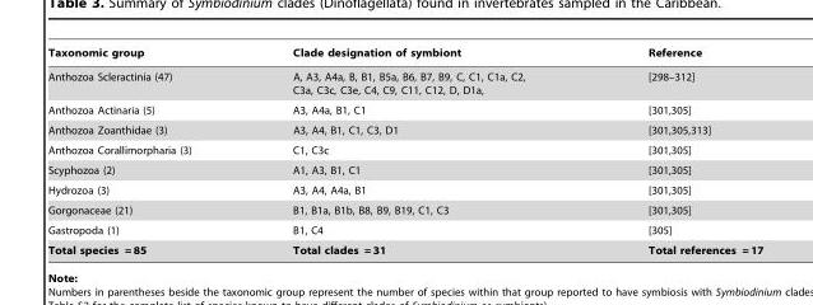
<table><thead><tr><td>Taxonomic group</td><td>Clade designation of symbiont</td><td>Reference</td></tr></thead><tbody><tr><td>Anthozoa Scleractinia (47)</td><td>A, A3, A4a, B, B1, B5a, B6, B7, B9, C, C1, C1a, C2, C3a, C3c, C3e, C4, C9, C11, C12, D, D1a,</td><td>[298–312]</td></tr><tr><td>Anthozoa Actinaria (5)</td><td>A3, A4a, B1, C1</td><td>[301,305]</td></tr><tr><td>Anthozoa Zoanthidae (3)</td><td>A3, A4, B1, C1, C3, D1</td><td>[301,305,313]</td></tr><tr><td>Anthozoa Corallimorpharia (3)</td><td>C1, C3c</td><td>[301,305]</td></tr><tr><td>Scyphozoa (2)</td><td>A1, A3, B1, C1</td><td>[301,305]</td></tr><tr><td>Hydrozoa (3)</td><td>A3, A4, A4a, B1</td><td>[301,305]</td></tr><tr><td>Gorgonaceae (21)</td><td>B1, B1a, B1b, B8, B9, B19, C1, C3</td><td>[301,305]</td></tr><tr><td>Gastropoda (1)</td><td>B1, C4</td><td>[305]</td></tr><tr><td>Total species = 85</td><td>Total clades = 31</td><td>Total references = 17</td></tr></tbody></table>